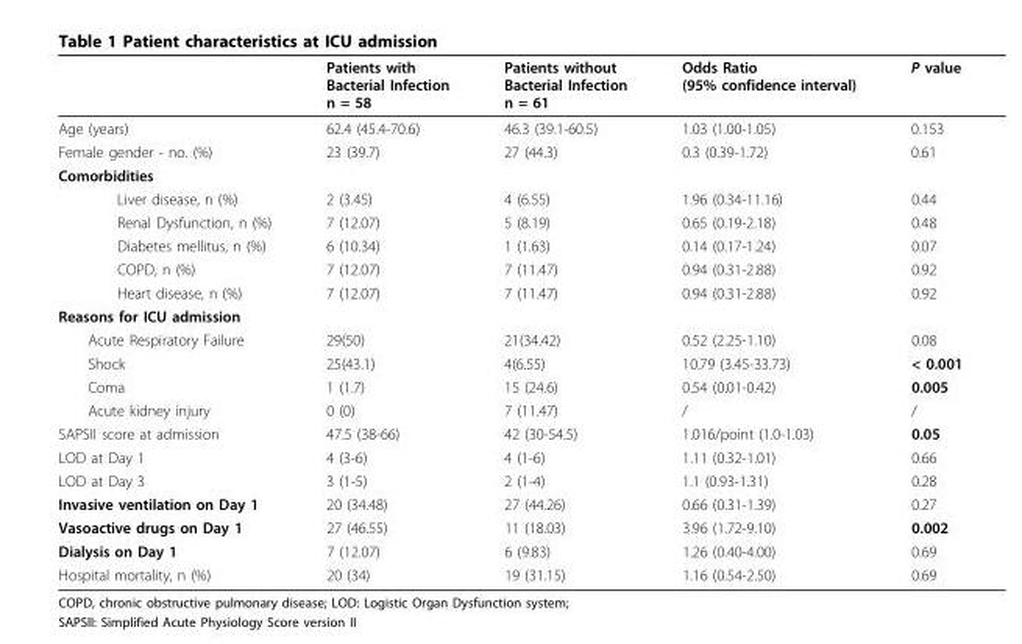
<table><thead><tr><td></td><td>Patients with Bacterial Infection n = 58</td><td>Patients without Bacterial Infection n = 61</td><td>Odds Ratio (95% confidence interval)</td><td>P value</td></tr></thead><tbody><tr><td>Age (years)</td><td>62.4 (45.4-70.6)</td><td>46.3 (39.1-60.5)</td><td>1.03 (1.00-1.05)</td><td>0.153</td></tr><tr><td>Female gender - no. (%)</td><td>23 (39.7)</td><td>27 (44.3)</td><td>0.3 (0.39-1.72)</td><td>0.61</td></tr><tr><td colspan="5">Comorbidities</td></tr><tr><td>Liver disease, n (%)</td><td>2 (3.45)</td><td>4 (6.55)</td><td>1.96 (0.34-11.16)</td><td>0.44</td></tr><tr><td>Renal Dysfunction, n (%)</td><td>7 (12.07)</td><td>5 (8.19)</td><td>0.65 (0.19-2.18)</td><td>0.48</td></tr><tr><td>Diabetes mellitus, n (%)</td><td>6 (10.34)</td><td>1 (1.63)</td><td>0.14 (0.17-1.24)</td><td>0.07</td></tr><tr><td>COPD, n (%)</td><td>7 (12.07)</td><td>7 (11.47)</td><td>0.94 (0.31-2.88)</td><td>0.92</td></tr><tr><td>Heart disease, n (%)</td><td>7 (12.07)</td><td>7 (11.47)</td><td>0.94 (0.31-2.88)</td><td>0.92</td></tr><tr><td colspan="5">Reasons for ICU admission</td></tr><tr><td>Acute Respiratory Failure</td><td>29(50)</td><td>21(34.42)</td><td>0.52 (2.25-1.10)</td><td>0.08</td></tr><tr><td>Shock</td><td>25(43.1)</td><td>4(6.55)</td><td>10.79 (3.45-33.73)</td><td>&lt; 0.001</td></tr><tr><td>Coma</td><td>1 (1.7)</td><td>15 (24.6)</td><td>0.54 (0.01-0.42)</td><td>0.005</td></tr><tr><td>Acute kidney injury</td><td>0 (0)</td><td>7 (11.47)</td><td>/</td><td>/</td></tr><tr><td>SAPSII score at admission</td><td>47.5 (38-66)</td><td>42 (30-54.5)</td><td>1.016/point (1.0-1.03)</td><td>0.05</td></tr><tr><td>LOD at Day 1</td><td>4 (3-6)</td><td>4 (1-6)</td><td>1.11 (0.32-1.01)</td><td>0.66</td></tr><tr><td>LOD at Day 3</td><td>3 (1-5)</td><td>2 (1-4)</td><td>1.1 (0.93-1.31)</td><td>0.28</td></tr><tr><td>Invasive ventilation on Day 1</td><td>20 (34.48)</td><td>27 (44.26)</td><td>0.66 (0.31-1.39)</td><td>0.27</td></tr><tr><td>Vasoactive drugs on Day 1</td><td>27 (46.55)</td><td>11 (18.03)</td><td>3.96 (1.72-9.10)</td><td>0.002</td></tr><tr><td>Dialysis on Day 1</td><td>7 (12.07)</td><td>6 (9.83)</td><td>1.26 (0.40-4.00)</td><td>0.69</td></tr><tr><td>Hospital mortality, n (%)</td><td>20 (34)</td><td>19 (31.15)</td><td>1.16 (0.54-2.50)</td><td>0.69</td></tr></tbody></table>